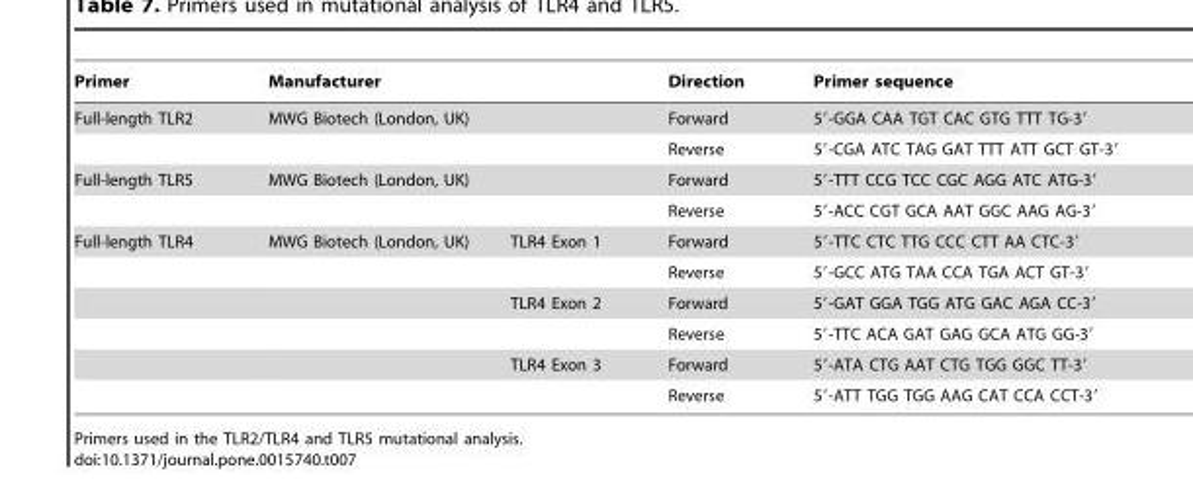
<table><thead><tr><td>Primer</td><td>Manufacturer</td><td></td><td>Direction</td><td>Primer sequence</td></tr></thead><tbody><tr><td rowspan="2">Full-length TLR2</td><td>MWG Biotech (London, UK)</td><td></td><td>Forward</td><td>5′-GGA CAA TGT CAC GTG TTT TG-3′</td></tr><tr><td></td><td></td><td>Reverse</td><td>5′-CGA ATC TAG GAT TTT ATT GCT GT-3′</td></tr><tr><td rowspan="2">Full-length TLR5</td><td>MWG Biotech (London, UK)</td><td></td><td>Forward</td><td>5′-TTT CCG TCC CGC AGG ATC ATG-3′</td></tr><tr><td></td><td></td><td>Reverse</td><td>5′-ACC CGT GCA AAT GGC AAG AG-3′</td></tr><tr><td rowspan="6">Full-length TLR4</td><td>MWG Biotech (London, UK)</td><td>TLR4 Exon 1</td><td>Forward</td><td>5′-TTC CTC TTG CCC CTT AA CTC-3′</td></tr><tr><td></td><td></td><td>Reverse</td><td>5′-GCC ATG TAA CCA TGA ACT GT-3′</td></tr><tr><td></td><td>TLR4 Exon 2</td><td>Forward</td><td>5′-GAT GGA TGG ATG GAC AGA CC-3′</td></tr><tr><td></td><td></td><td>Reverse</td><td>5′-TTC ACA GAT GAG GCA ATG GG-3′</td></tr><tr><td></td><td>TLR4 Exon 3</td><td>Forward</td><td>5′-ATA CTG AAT CTG TGG GGC TT-3′</td></tr><tr><td></td><td></td><td>Reverse</td><td>5′-ATT TGG TGG AAG CAT CCA CCT-3′</td></tr></tbody></table>